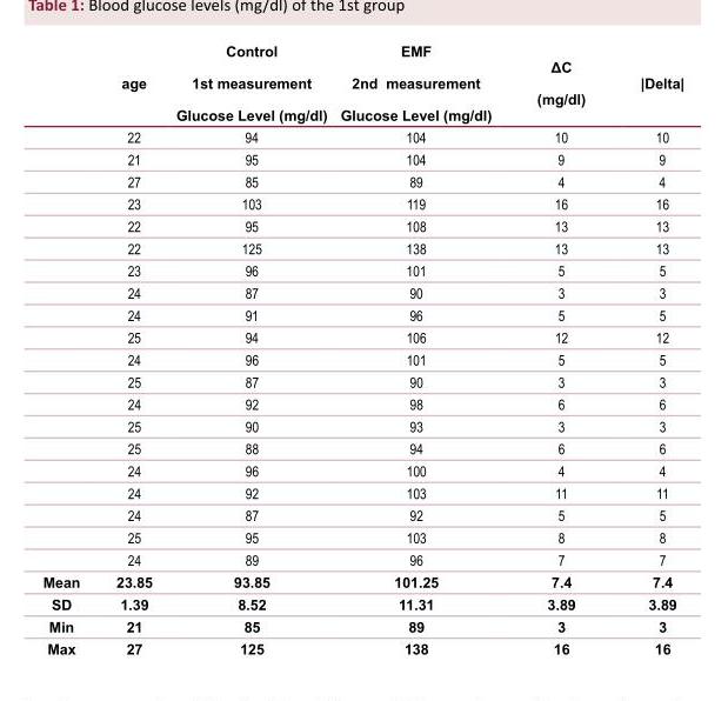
<table><thead><tr><td></td><td>age</td><td>Control 1st measurement Glucose Level (mg/dl)</td><td>EMF 2nd measurement Glucose Level (mg/dl)</td><td>ΔC (mg/dl)</td><td>|Delta|</td></tr></thead><tbody><tr><td></td><td>22</td><td>94</td><td>104</td><td>10</td><td>10</td></tr><tr><td></td><td>21</td><td>95</td><td>104</td><td>9</td><td>9</td></tr><tr><td></td><td>27</td><td>85</td><td>89</td><td>4</td><td>4</td></tr><tr><td></td><td>23</td><td>103</td><td>119</td><td>16</td><td>16</td></tr><tr><td></td><td>22</td><td>95</td><td>108</td><td>13</td><td>13</td></tr><tr><td></td><td>22</td><td>125</td><td>138</td><td>13</td><td>13</td></tr><tr><td></td><td>23</td><td>96</td><td>101</td><td>5</td><td>5</td></tr><tr><td></td><td>24</td><td>87</td><td>90</td><td>3</td><td>3</td></tr><tr><td></td><td>24</td><td>91</td><td>96</td><td>5</td><td>5</td></tr><tr><td></td><td>25</td><td>94</td><td>106</td><td>12</td><td>12</td></tr><tr><td></td><td>24</td><td>96</td><td>101</td><td>5</td><td>5</td></tr><tr><td></td><td>25</td><td>87</td><td>90</td><td>3</td><td>3</td></tr><tr><td></td><td>24</td><td>92</td><td>98</td><td>6</td><td>6</td></tr><tr><td></td><td>25</td><td>90</td><td>93</td><td>3</td><td>3</td></tr><tr><td></td><td>25</td><td>88</td><td>94</td><td>6</td><td>6</td></tr><tr><td></td><td>24</td><td>96</td><td>100</td><td>4</td><td>4</td></tr><tr><td></td><td>24</td><td>92</td><td>103</td><td>11</td><td>11</td></tr><tr><td></td><td>24</td><td>87</td><td>92</td><td>5</td><td>5</td></tr><tr><td></td><td>25</td><td>95</td><td>103</td><td>8</td><td>8</td></tr><tr><td></td><td>24</td><td>89</td><td>96</td><td>7</td><td>7</td></tr><tr><td>Mean</td><td>23.85</td><td>93.85</td><td>101.25</td><td>7.4</td><td>7.4</td></tr><tr><td>SD</td><td>1.39</td><td>8.52</td><td>11.31</td><td>3.89</td><td>3.89</td></tr><tr><td>Min</td><td>21</td><td>85</td><td>89</td><td>3</td><td>3</td></tr><tr><td>Max</td><td>27</td><td>125</td><td>138</td><td>16</td><td>16</td></tr></tbody></table>